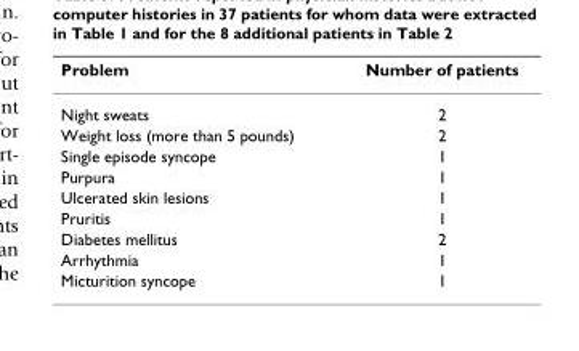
<table><thead><tr><td>Problem</td><td>Number of patients</td></tr></thead><tbody><tr><td>Night sweats</td><td>2</td></tr><tr><td>Weight loss (more than 5 pounds)</td><td>2</td></tr><tr><td>Single episode syncope</td><td>1</td></tr><tr><td>Purpura</td><td>1</td></tr><tr><td>Ulcerated skin lesions</td><td>1</td></tr><tr><td>Pruritis</td><td>1</td></tr><tr><td>Diabetes mellitus</td><td>2</td></tr><tr><td>Arrhythmia</td><td>1</td></tr><tr><td>Micturition syncope</td><td>1</td></tr></tbody></table>